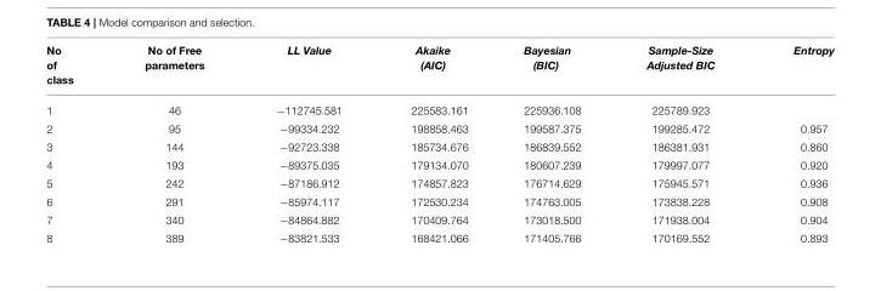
<table><thead><tr><td>No of class</td><td>No of Free parameters</td><td>LL Value</td><td>Akaike (AIC)</td><td>Bayesian (BIC)</td><td>Sample-Size Adjusted BIC</td><td>Entropy</td></tr></thead><tbody><tr><td>1</td><td>46</td><td>−112745.581</td><td>225583.161</td><td>225936.108</td><td>225789.923</td><td></td></tr><tr><td>2</td><td>95</td><td>−99334.232</td><td>198858.463</td><td>199587.375</td><td>199285.472</td><td>0.957</td></tr><tr><td>3</td><td>144</td><td>−92723.338</td><td>185734.676</td><td>186839.552</td><td>186381.931</td><td>0.860</td></tr><tr><td>4</td><td>193</td><td>−89375.035</td><td>179134.070</td><td>180607.239</td><td>179997.077</td><td>0.920</td></tr><tr><td>5</td><td>242</td><td>−87186.912</td><td>174857.823</td><td>176714.629</td><td>175945.571</td><td>0.936</td></tr><tr><td>6</td><td>291</td><td>−85974.117</td><td>172530.234</td><td>174763.005</td><td>173838.228</td><td>0.908</td></tr><tr><td>7</td><td>340</td><td>−84864.882</td><td>170409.764</td><td>173018.500</td><td>171938.004</td><td>0.904</td></tr><tr><td>8</td><td>389</td><td>−83821.533</td><td>168421.066</td><td>171405.766</td><td>170169.552</td><td>0.893</td></tr></tbody></table>